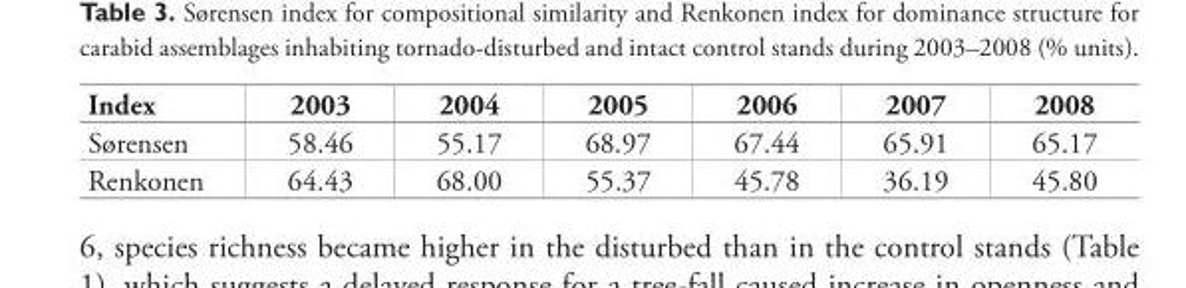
<table><thead><tr><td>Index</td><td>2003</td><td>2004</td><td>2005</td><td>2006</td><td>2007</td><td>2008</td></tr></thead><tbody><tr><td>Sørensen</td><td>58.46</td><td>55.17</td><td>68.97</td><td>67.44</td><td>65.91</td><td>65.17</td></tr><tr><td>Renkonen</td><td>64.43</td><td>68.00</td><td>55.37</td><td>45.78</td><td>36.19</td><td>45.80</td></tr></tbody></table>